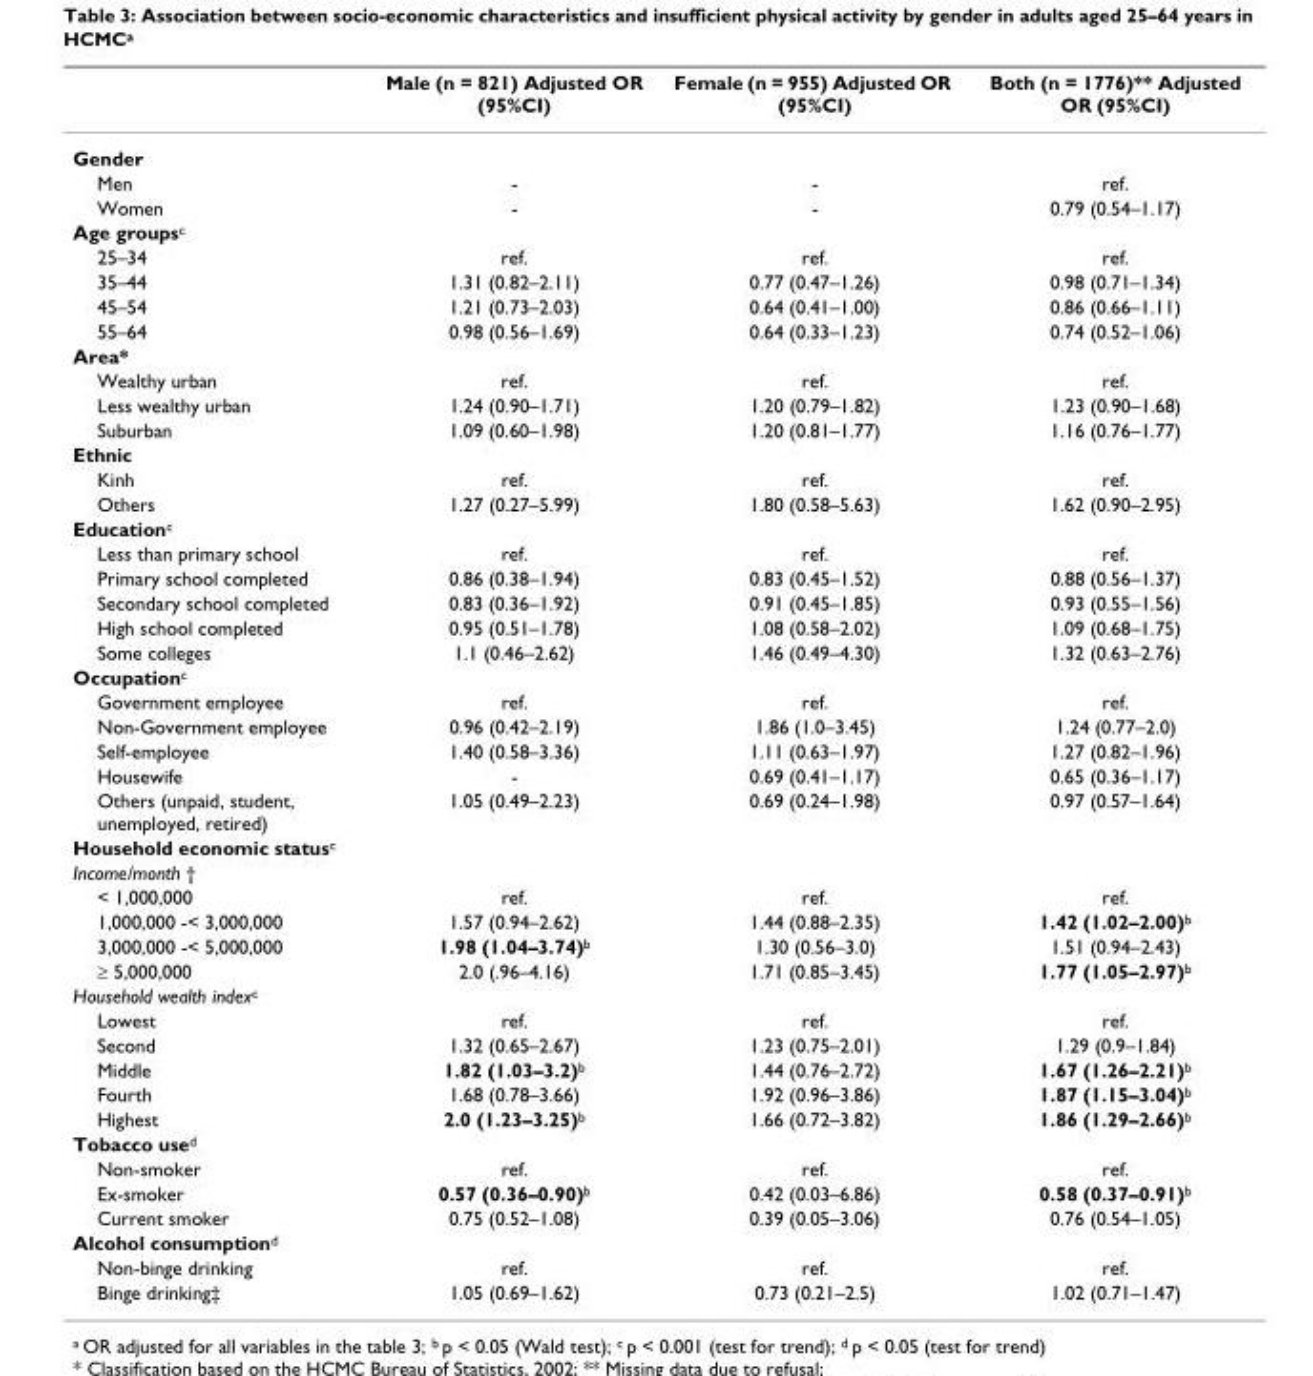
<table><thead><tr><td></td><td>Male (n = 821) Adjusted OR (95%CI)</td><td>Female (n = 955) Adjusted OR (95%CI)</td><td>Both (n = 1776)** Adjusted OR (95%CI)</td></tr></thead><tbody><tr><td colspan="4">Gender</td></tr><tr><td>Men</td><td>-</td><td>-</td><td>ref.</td></tr><tr><td>Women</td><td>-</td><td>-</td><td>0.79 (0.54–1.17)</td></tr><tr><td colspan="4">Age groups<sup>c</sup></td></tr><tr><td>25–34</td><td>ref.</td><td>ref.</td><td>ref.</td></tr><tr><td>35–44</td><td>1.31 (0.82–2.11)</td><td>0.77 (0.47–1.26)</td><td>0.98 (0.71–1.34)</td></tr><tr><td>45–54</td><td>1.21 (0.73–2.03)</td><td>0.64 (0.41–1.00)</td><td>0.86 (0.66–1.11)</td></tr><tr><td>55–64</td><td>0.98 (0.56–1.69)</td><td>0.64 (0.33–1.23)</td><td>0.74 (0.52–1.06)</td></tr><tr><td colspan="4">Area*</td></tr><tr><td>Wealthy urban</td><td>ref.</td><td>ref.</td><td>ref.</td></tr><tr><td>Less wealthy urban</td><td>1.24 (0.90–1.71)</td><td>1.20 (0.79–1.82)</td><td>1.23 (0.90–1.68)</td></tr><tr><td>Suburban</td><td>1.09 (0.60–1.98)</td><td>1.20 (0.81–1.77)</td><td>1.16 (0.76–1.77)</td></tr><tr><td colspan="4">Ethnic</td></tr><tr><td>Kinh</td><td>ref.</td><td>ref.</td><td>ref.</td></tr><tr><td>Others</td><td>1.27 (0.27–5.99)</td><td>1.80 (0.58–5.63)</td><td>1.62 (0.90–2.95)</td></tr><tr><td colspan="4">Education<sup>c</sup></td></tr><tr><td>Less than primary school</td><td>ref.</td><td>ref.</td><td>ref.</td></tr><tr><td>Primary school completed</td><td>0.86 (0.38–1.94)</td><td>0.83 (0.45–1.52)</td><td>0.88 (0.56–1.37)</td></tr><tr><td>Secondary school completed</td><td>0.83 (0.36–1.92)</td><td>0.91 (0.45–1.85)</td><td>0.93 (0.55–1.56)</td></tr><tr><td>High school completed</td><td>0.95 (0.51–1.78)</td><td>1.08 (0.58–2.02)</td><td>1.09 (0.68–1.75)</td></tr><tr><td>Some colleges</td><td>1.1 (0.46–2.62)</td><td>1.46 (0.49–4.30)</td><td>1.32 (0.63–2.76)</td></tr><tr><td colspan="4">Occupation<sup>c</sup></td></tr><tr><td>Government employee</td><td>ref.</td><td>ref.</td><td>ref.</td></tr><tr><td>Non-Government employee</td><td>0.96 (0.42–2.19)</td><td>1.86 (1.0–3.45)</td><td>1.24 (0.77–2.0)</td></tr><tr><td>Self-employee</td><td>1.40 (0.58–3.36)</td><td>1.11 (0.63–1.97)</td><td>1.27 (0.82–1.96)</td></tr><tr><td>Housewife</td><td>-</td><td>0.69 (0.41–1.17)</td><td>0.65 (0.36–1.17)</td></tr><tr><td>Others (unpaid, student, unemployed, retired)</td><td>1.05 (0.49–2.23)</td><td>0.69 (0.24–1.98)</td><td>0.97 (0.57–1.64)</td></tr><tr><td colspan="4">Household economic status<sup>c</sup></td></tr><tr><td colspan="4">Income/month †</td></tr><tr><td>&lt; 1,000,000</td><td>ref.</td><td>ref.</td><td>ref.</td></tr><tr><td>1,000,000 -&lt; 3,000,000</td><td>1.57 (0.94–2.62)</td><td>1.44 (0.88–2.35)</td><td>1.42 (1.02–2.00)<sup>b</sup></td></tr><tr><td>3,000,000 -&lt; 5,000,000</td><td>1.98 (1.04–3.74)<sup>b</sup></td><td>1.30 (0.56–3.0)</td><td>1.51 (0.94–2.43)</td></tr><tr><td>≥ 5,000,000</td><td>2.0 (.96–4.16)</td><td>1.71 (0.85–3.45)</td><td>1.77 (1.05–2.97)<sup>b</sup></td></tr><tr><td colspan="4">Household wealth index<sup>c</sup></td></tr><tr><td>Lowest</td><td>ref.</td><td>ref.</td><td>ref.</td></tr><tr><td>Second</td><td>1.32 (0.65–2.67)</td><td>1.23 (0.75–2.01)</td><td>1.29 (0.9–1.84)</td></tr><tr><td>Middle</td><td>1.82 (1.03–3.2)<sup>b</sup></td><td>1.44 (0.76–2.72)</td><td>1.67 (1.26–2.21)<sup>b</sup></td></tr><tr><td>Fourth</td><td>1.68 (0.78–3.66)</td><td>1.92 (0.96–3.86)</td><td>1.87 (1.15–3.04)<sup>b</sup></td></tr><tr><td>Highest</td><td>2.0 (1.23–3.25)<sup>b</sup></td><td>1.66 (0.72–3.82)</td><td>1.86 (1.29–2.66)<sup>b</sup></td></tr><tr><td colspan="4">Tobacco use<sup>d</sup></td></tr><tr><td>Non-smoker</td><td>ref.</td><td>ref.</td><td>ref.</td></tr><tr><td>Ex-smoker</td><td>0.57 (0.36–0.90)<sup>b</sup></td><td>0.42 (0.03–6.86)</td><td>0.58 (0.37–0.91)<sup>b</sup></td></tr><tr><td>Current smoker</td><td>0.75 (0.52–1.08)</td><td>0.39 (0.05–3.06)</td><td>0.76 (0.54–1.05)</td></tr><tr><td colspan="4">Alcohol consumption<sup>d</sup></td></tr><tr><td>Non-binge drinking</td><td>ref.</td><td>ref.</td><td>ref.</td></tr><tr><td>Binge drinking‡</td><td>1.05 (0.69–1.62)</td><td>0.73 (0.21–2.5)</td><td>1.02 (0.71–1.47)</td></tr></tbody></table>